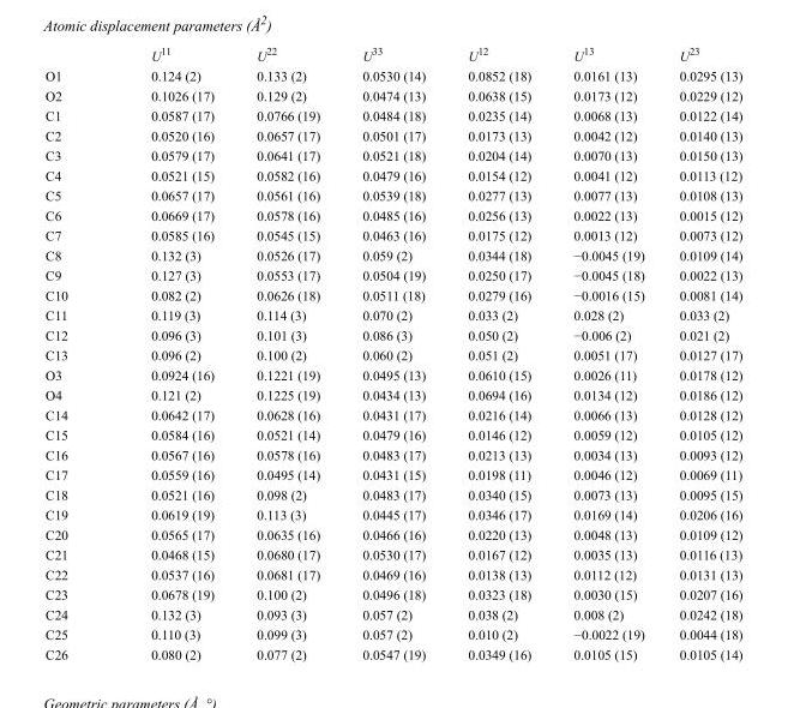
<table><thead><tr><td></td><td>U<sup>11</sup></td><td>U<sup>22</sup></td><td>U<sup>33</sup></td><td>U<sup>12</sup></td><td>U<sup>13</sup></td><td>U<sup>23</sup></td></tr></thead><tbody><tr><td>O1</td><td>0.124 (2)</td><td>0.133 (2)</td><td>0.0530 (14)</td><td>0.0852 (18)</td><td>0.0161 (13)</td><td>0.0295 (13)</td></tr><tr><td>O2</td><td>0.1026 (17)</td><td>0.129 (2)</td><td>0.0474 (13)</td><td>0.0638 (15)</td><td>0.0173 (12)</td><td>0.0229 (12)</td></tr><tr><td>C1</td><td>0.0587 (17)</td><td>0.0766 (19)</td><td>0.0484 (18)</td><td>0.0235 (14)</td><td>0.0068 (13)</td><td>0.0122 (14)</td></tr><tr><td>C2</td><td>0.0520 (16)</td><td>0.0657 (17)</td><td>0.0501 (17)</td><td>0.0173 (13)</td><td>0.0042 (12)</td><td>0.0140 (13)</td></tr><tr><td>C3</td><td>0.0579 (17)</td><td>0.0641 (17)</td><td>0.0521 (18)</td><td>0.0204 (14)</td><td>0.0070 (13)</td><td>0.0150 (13)</td></tr><tr><td>C4</td><td>0.0521 (15)</td><td>0.0582 (16)</td><td>0.0479 (16)</td><td>0.0154 (12)</td><td>0.0041 (12)</td><td>0.0113 (12)</td></tr><tr><td>C5</td><td>0.0657 (17)</td><td>0.0561 (16)</td><td>0.0539 (18)</td><td>0.0277 (13)</td><td>0.0077 (13)</td><td>0.0108 (13)</td></tr><tr><td>C6</td><td>0.0669 (17)</td><td>0.0578 (16)</td><td>0.0485 (16)</td><td>0.0256 (13)</td><td>0.0022 (13)</td><td>0.0015 (12)</td></tr><tr><td>C7</td><td>0.0585 (16)</td><td>0.0545 (15)</td><td>0.0463 (16)</td><td>0.0175 (12)</td><td>0.0013 (12)</td><td>0.0073 (12)</td></tr><tr><td>C8</td><td>0.132 (3)</td><td>0.0526 (17)</td><td>0.059 (2)</td><td>0.0344 (18)</td><td>−0.0045 (19)</td><td>0.0109 (14)</td></tr><tr><td>C9</td><td>0.127 (3)</td><td>0.0553 (17)</td><td>0.0504 (19)</td><td>0.0250 (17)</td><td>−0.0045 (18)</td><td>0.0022 (13)</td></tr><tr><td>C10</td><td>0.082 (2)</td><td>0.0626 (18)</td><td>0.0511 (18)</td><td>0.0279 (16)</td><td>−0.0016 (15)</td><td>0.0081 (14)</td></tr><tr><td>C11</td><td>0.119 (3)</td><td>0.114 (3)</td><td>0.070 (2)</td><td>0.033 (2)</td><td>0.028 (2)</td><td>0.033 (2)</td></tr><tr><td>C12</td><td>0.096 (3)</td><td>0.101 (3)</td><td>0.086 (3)</td><td>0.050 (2)</td><td>−0.006 (2)</td><td>0.021 (2)</td></tr><tr><td>C13</td><td>0.096 (2)</td><td>0.100 (2)</td><td>0.060 (2)</td><td>0.051 (2)</td><td>0.0051 (17)</td><td>0.0127 (17)</td></tr><tr><td>O3</td><td>0.0924 (16)</td><td>0.1221 (19)</td><td>0.0495 (13)</td><td>0.0610 (15)</td><td>0.0026 (11)</td><td>0.0178 (12)</td></tr><tr><td>O4</td><td>0.121 (2)</td><td>0.1225 (19)</td><td>0.0434 (13)</td><td>0.0694 (16)</td><td>0.0134 (12)</td><td>0.0186 (12)</td></tr><tr><td>C14</td><td>0.0642 (17)</td><td>0.0628 (16)</td><td>0.0431 (17)</td><td>0.0216 (14)</td><td>0.0066 (13)</td><td>0.0128 (12)</td></tr><tr><td>C15</td><td>0.0584 (16)</td><td>0.0521 (14)</td><td>0.0479 (16)</td><td>0.0146 (12)</td><td>0.0059 (12)</td><td>0.0105 (12)</td></tr><tr><td>C16</td><td>0.0567 (16)</td><td>0.0578 (16)</td><td>0.0483 (17)</td><td>0.0213 (13)</td><td>0.0034 (13)</td><td>0.0093 (12)</td></tr><tr><td>C17</td><td>0.0559 (16)</td><td>0.0495 (14)</td><td>0.0431 (15)</td><td>0.0198 (11)</td><td>0.0046 (12)</td><td>0.0069 (11)</td></tr><tr><td>C18</td><td>0.0521 (16)</td><td>0.098 (2)</td><td>0.0483 (17)</td><td>0.0340 (15)</td><td>0.0073 (13)</td><td>0.0095 (15)</td></tr><tr><td>C19</td><td>0.0619 (19)</td><td>0.113 (3)</td><td>0.0445 (17)</td><td>0.0346 (17)</td><td>0.0169 (14)</td><td>0.0206 (16)</td></tr><tr><td>C20</td><td>0.0565 (17)</td><td>0.0635 (16)</td><td>0.0466 (16)</td><td>0.0220 (13)</td><td>0.0048 (13)</td><td>0.0109 (12)</td></tr><tr><td>C21</td><td>0.0468 (15)</td><td>0.0680 (17)</td><td>0.0530 (17)</td><td>0.0167 (12)</td><td>0.0035 (13)</td><td>0.0116 (13)</td></tr><tr><td>C22</td><td>0.0537 (16)</td><td>0.0681 (17)</td><td>0.0469 (16)</td><td>0.0138 (13)</td><td>0.0112 (12)</td><td>0.0131 (13)</td></tr><tr><td>C23</td><td>0.0678 (19)</td><td>0.100 (2)</td><td>0.0496 (18)</td><td>0.0323 (18)</td><td>0.0030 (15)</td><td>0.0207 (16)</td></tr><tr><td>C24</td><td>0.132 (3)</td><td>0.093 (3)</td><td>0.057 (2)</td><td>0.038 (2)</td><td>0.008 (2)</td><td>0.0242 (18)</td></tr><tr><td>C25</td><td>0.110 (3)</td><td>0.099 (3)</td><td>0.057 (2)</td><td>0.010 (2)</td><td>−0.0022 (19)</td><td>0.0044 (18)</td></tr><tr><td>C26</td><td>0.080 (2)</td><td>0.077 (2)</td><td>0.0547 (19)</td><td>0.0349 (16)</td><td>0.0105 (15)</td><td>0.0105 (14)</td></tr></tbody></table>